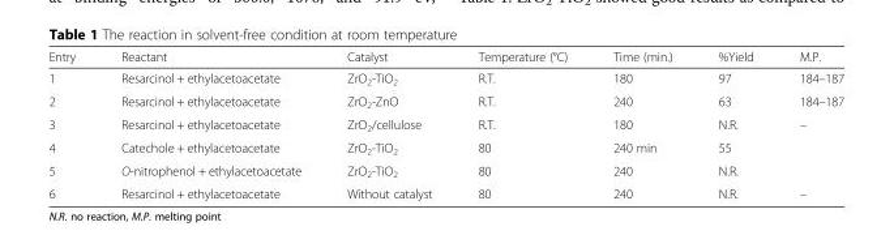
<table><thead><tr><td>Entry</td><td>Reactant</td><td>Catalyst</td><td>Temperature (°C)</td><td>Time (min.)</td><td>%Yield</td><td>M.P.</td></tr></thead><tbody><tr><td>1</td><td>Resarcinol + ethylacetoacetate</td><td>ZrO<sub>2</sub>-TiO<sub>2</sub></td><td>R.T.</td><td>180</td><td>97</td><td>184–187</td></tr><tr><td>2</td><td>Resarcinol + ethylacetoacetate</td><td>ZrO<sub>2</sub>-ZnO</td><td>R.T.</td><td>240</td><td>63</td><td>184–187</td></tr><tr><td>3</td><td>Resarcinol + ethylacetoacetate</td><td>ZrO<sub>2</sub>/cellulose</td><td>R.T.</td><td>180</td><td>N.R.</td><td>–</td></tr><tr><td>4</td><td>Catechole + ethylacetoacetate</td><td>ZrO<sub>2</sub>-TiO<sub>2</sub></td><td>80</td><td>240 min</td><td>55</td><td></td></tr><tr><td>5</td><td>O-nitrophenol + ethylacetoacetate</td><td>ZrO<sub>2</sub>-TiO<sub>2</sub></td><td>80</td><td>240</td><td>N.R.</td><td></td></tr><tr><td>6</td><td>Resarcinol + ethylacetoacetate</td><td>Without catalyst</td><td>80</td><td>240</td><td>N.R.</td><td>–</td></tr></tbody></table>